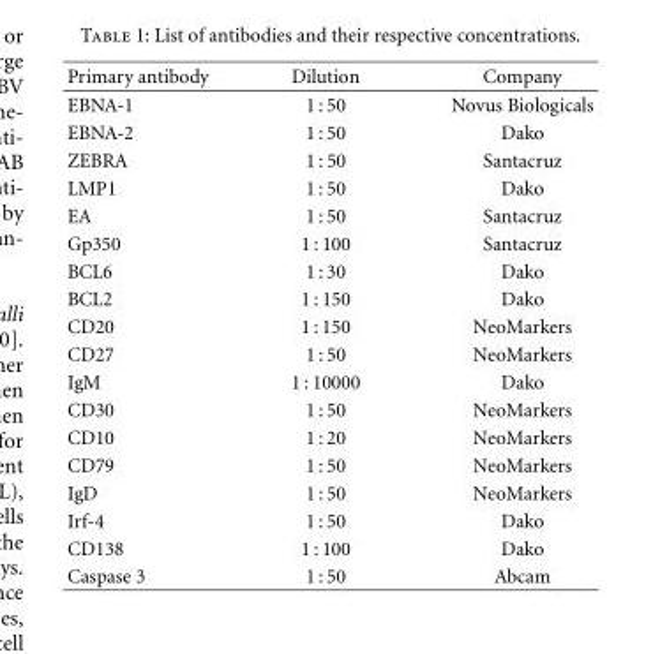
<table><thead><tr><td>Primary antibody</td><td>Dilution</td><td>Company</td></tr></thead><tbody><tr><td>EBNA-1</td><td>1 : 50</td><td>Novus Biologicals</td></tr><tr><td>EBNA-2</td><td>1 : 50</td><td>Dako</td></tr><tr><td>ZEBRA</td><td>1 : 50</td><td>Santacruz</td></tr><tr><td>LMP1</td><td>1 : 50</td><td>Dako</td></tr><tr><td>EA</td><td>1 : 50</td><td>Santacruz</td></tr><tr><td>Gp350</td><td>1 : 100</td><td>Santacruz</td></tr><tr><td>BCL6</td><td>1 : 30</td><td>Dako</td></tr><tr><td>BCL2</td><td>1 : 150</td><td>Dako</td></tr><tr><td>CD20</td><td>1 : 150</td><td>NeoMarkers</td></tr><tr><td>CD27</td><td>1 : 50</td><td>NeoMarkers</td></tr><tr><td>IgM</td><td>1 : 10000</td><td>Dako</td></tr><tr><td>CD30</td><td>1 : 50</td><td>NeoMarkers</td></tr><tr><td>CD10</td><td>1 : 20</td><td>NeoMarkers</td></tr><tr><td>CD79</td><td>1 : 50</td><td>NeoMarkers</td></tr><tr><td>IgD</td><td>1 : 50</td><td>NeoMarkers</td></tr><tr><td>Irf-4</td><td>1 : 50</td><td>Dako</td></tr><tr><td>CD138</td><td>1 : 100</td><td>Dako</td></tr><tr><td>Caspase 3</td><td>1 : 50</td><td>Abcam</td></tr></tbody></table>